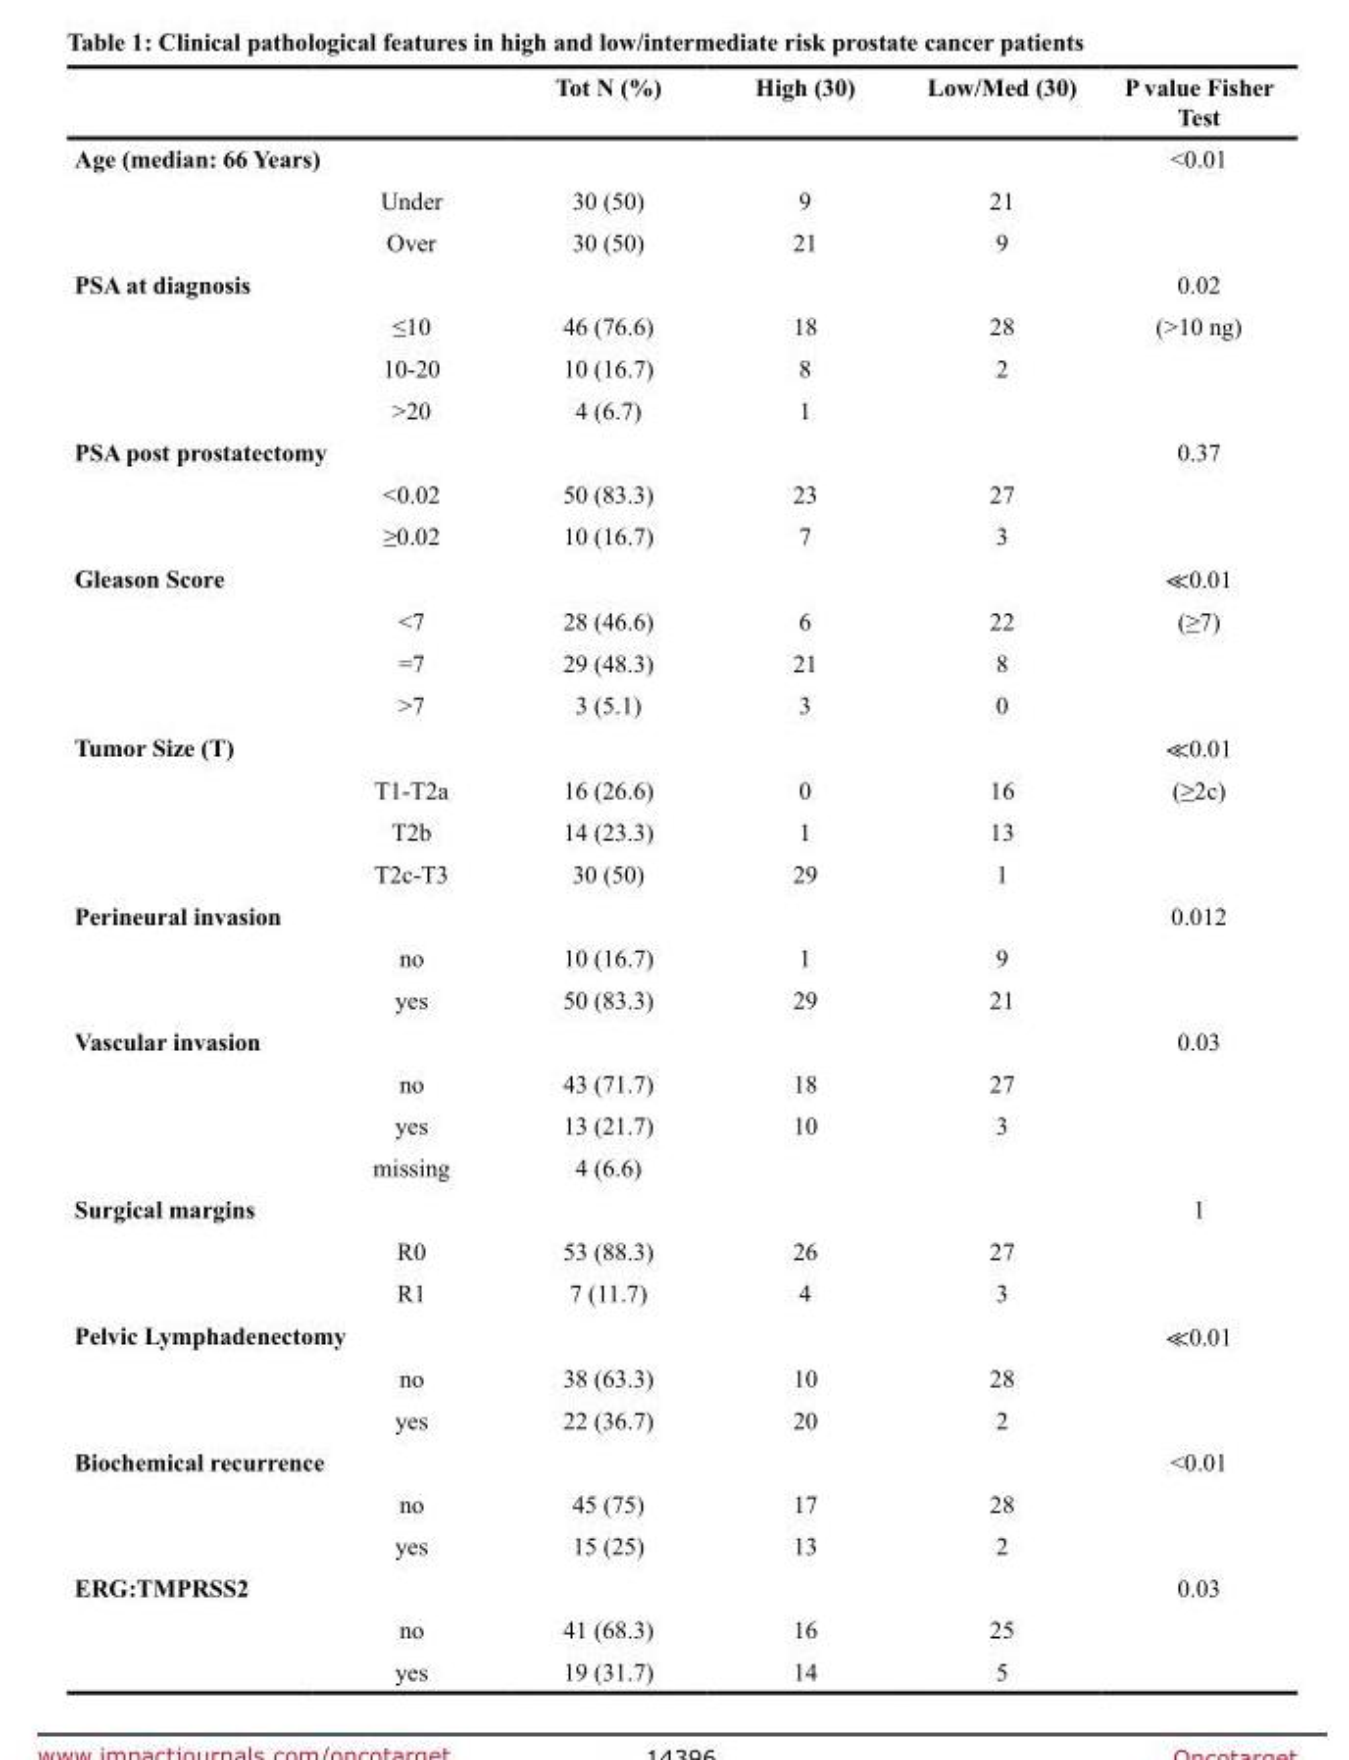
<table><thead><tr><td></td><td></td><td>Tot N (%)</td><td>High (30)</td><td>Low/Med (30)</td><td>P value Fisher Test</td></tr></thead><tbody><tr><td rowspan="3">Age (median: 66 Years)</td><td></td><td></td><td></td><td></td><td>&lt;0.01</td></tr><tr><td>Under</td><td>30 (50)</td><td>9</td><td>21</td><td></td></tr><tr><td>Over</td><td>30 (50)</td><td>21</td><td>9</td><td></td></tr><tr><td rowspan="4">PSA at diagnosis</td><td></td><td></td><td></td><td></td><td>0.02</td></tr><tr><td>≤10</td><td>46 (76.6)</td><td>18</td><td>28</td><td>(&gt;10 ng)</td></tr><tr><td>10-20</td><td>10 (16.7)</td><td>8</td><td>2</td><td></td></tr><tr><td>&gt;20</td><td>4 (6.7)</td><td>1</td><td></td><td></td></tr><tr><td rowspan="3">PSA post prostatectomy</td><td></td><td></td><td></td><td></td><td>0.37</td></tr><tr><td>&lt;0.02</td><td>50 (83.3)</td><td>23</td><td>27</td><td></td></tr><tr><td>≥0.02</td><td>10 (16.7)</td><td>7</td><td>3</td><td></td></tr><tr><td rowspan="4">Gleason Score</td><td></td><td></td><td></td><td></td><td>≪0.01</td></tr><tr><td>&lt;7</td><td>28 (46.6)</td><td>6</td><td>22</td><td>(≥7)</td></tr><tr><td>=7</td><td>29 (48.3)</td><td>21</td><td>8</td><td></td></tr><tr><td>&gt;7</td><td>3 (5.1)</td><td>3</td><td>0</td><td></td></tr><tr><td rowspan="4">Tumor Size (T)</td><td></td><td></td><td></td><td></td><td>≪0.01</td></tr><tr><td>T1-T2a</td><td>16 (26.6)</td><td>0</td><td>16</td><td>(≥2c)</td></tr><tr><td>T2b</td><td>14 (23.3)</td><td>1</td><td>13</td><td></td></tr><tr><td>T2c-T3</td><td>30 (50)</td><td>29</td><td>1</td><td></td></tr><tr><td rowspan="3">Perineural invasion</td><td></td><td></td><td></td><td></td><td>0.012</td></tr><tr><td>no</td><td>10 (16.7)</td><td>1</td><td>9</td><td></td></tr><tr><td>yes</td><td>50 (83.3)</td><td>29</td><td>21</td><td></td></tr><tr><td rowspan="4">Vascular invasion</td><td></td><td></td><td></td><td></td><td>0.03</td></tr><tr><td>no</td><td>43 (71.7)</td><td>18</td><td>27</td><td></td></tr><tr><td>yes</td><td>13 (21.7)</td><td>10</td><td>3</td><td></td></tr><tr><td>missing</td><td>4 (6.6)</td><td></td><td></td><td></td></tr><tr><td rowspan="3">Surgical margins</td><td></td><td></td><td></td><td></td><td>1</td></tr><tr><td>R0</td><td>53 (88.3)</td><td>26</td><td>27</td><td></td></tr><tr><td>R1</td><td>7 (11.7)</td><td>4</td><td>3</td><td></td></tr><tr><td rowspan="3">Pelvic Lymphadenectomy</td><td></td><td></td><td></td><td></td><td>≪0.01</td></tr><tr><td>no</td><td>38 (63.3)</td><td>10</td><td>28</td><td></td></tr><tr><td>yes</td><td>22 (36.7)</td><td>20</td><td>2</td><td></td></tr><tr><td rowspan="3">Biochemical recurrence</td><td></td><td></td><td></td><td></td><td>&lt;0.01</td></tr><tr><td>no</td><td>45 (75)</td><td>17</td><td>28</td><td></td></tr><tr><td>yes</td><td>15 (25)</td><td>13</td><td>2</td><td></td></tr><tr><td rowspan="3">ERG:TMPRSS2</td><td></td><td></td><td></td><td></td><td>0.03</td></tr><tr><td>no</td><td>41 (68.3)</td><td>16</td><td>25</td><td></td></tr><tr><td>yes</td><td>19 (31.7)</td><td>14</td><td>5</td><td></td></tr></tbody></table>